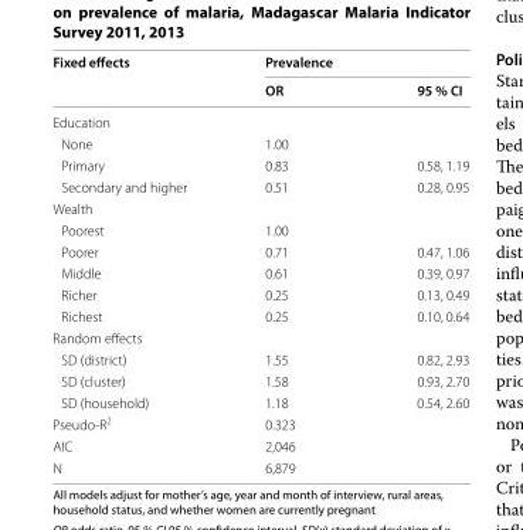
<table><thead><tr><td rowspan="2">Fixed effects</td><td colspan="2">Prevalence</td></tr><tr><td>OR</td><td>95 % CI</td></tr></thead><tbody><tr><td colspan="3">Education</td></tr><tr><td>None</td><td>1.00</td><td></td></tr><tr><td>Primary</td><td>0.83</td><td>0.58, 1.19</td></tr><tr><td>Secondary and higher</td><td>0.51</td><td>0.28, 0.95</td></tr><tr><td colspan="3">Wealth</td></tr><tr><td>Poorest</td><td>1.00</td><td></td></tr><tr><td>Poorer</td><td>0.71</td><td>0.47, 1.06</td></tr><tr><td>Middle</td><td>0.61</td><td>0.39, 0.97</td></tr><tr><td>Richer</td><td>0.25</td><td>0.13, 0.49</td></tr><tr><td>Richest</td><td>0.25</td><td>0.10, 0.64</td></tr><tr><td colspan="3">Random effects</td></tr><tr><td>SD (district)</td><td>1.55</td><td>0.82, 2.93</td></tr><tr><td>SD (cluster)</td><td>1.58</td><td>0.93, 2.70</td></tr><tr><td>SD (household)</td><td>1.18</td><td>0.54, 2.60</td></tr><tr><td>Pseudo-R<sup>2</sup></td><td>0.323</td><td></td></tr><tr><td>AIC</td><td>2,046</td><td></td></tr><tr><td>N</td><td>6,879</td><td></td></tr></tbody></table>